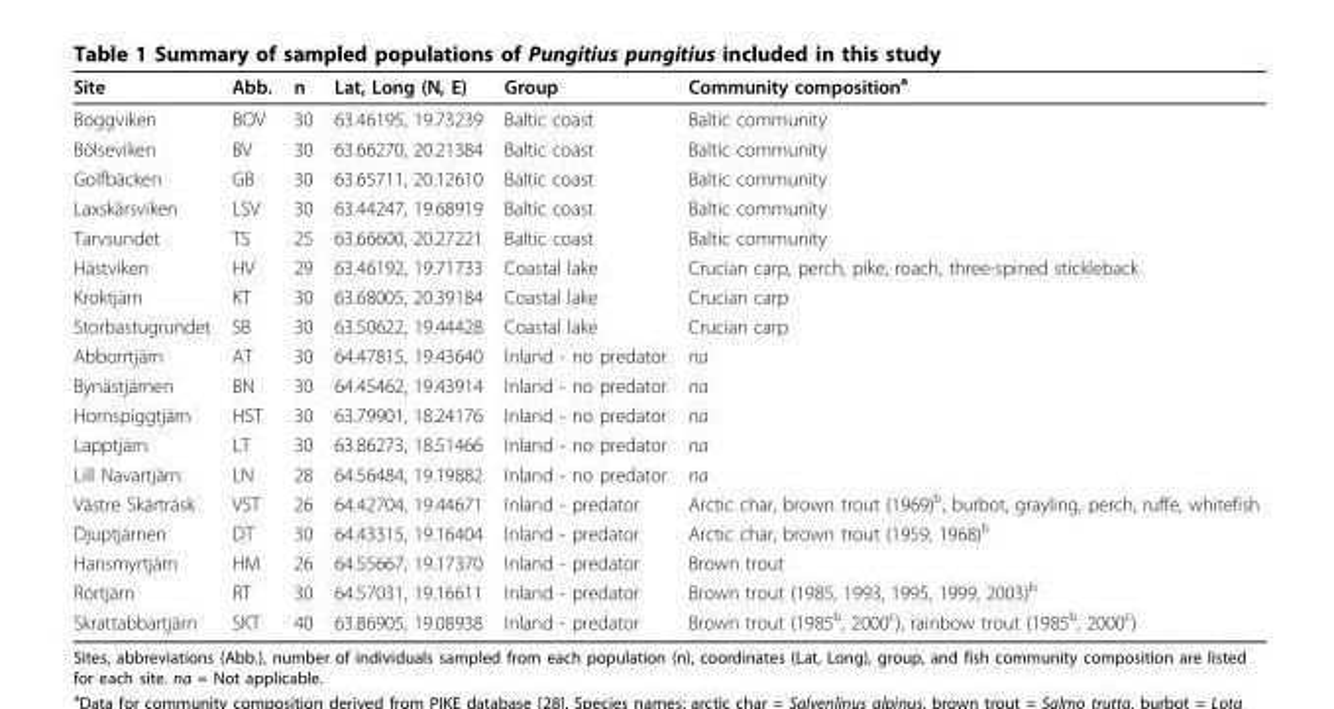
<table><thead><tr><td>Site</td><td>Abb.</td><td>n</td><td>Lat, Long (N, E)</td><td>Group</td><td>Community composition<sup>a</sup></td></tr></thead><tbody><tr><td>Boggviken</td><td>BOV</td><td>30</td><td>63.46195, 19.73239</td><td>Baltic coast</td><td>Baltic community</td></tr><tr><td>Bölseviken</td><td>BV</td><td>30</td><td>63.66270, 20.21384</td><td>Baltic coast</td><td>Baltic community</td></tr><tr><td>Golfbäcken</td><td>GB</td><td>30</td><td>63.65711, 20.12610</td><td>Baltic coast</td><td>Baltic community</td></tr><tr><td>Laxskärsviken</td><td>LSV</td><td>30</td><td>63.44247, 19.68919</td><td>Baltic coast</td><td>Baltic community</td></tr><tr><td>Tarvsundet</td><td>TS</td><td>25</td><td>63.66600, 20.27221</td><td>Baltic coast</td><td>Baltic community</td></tr><tr><td>Hästviken</td><td>HV</td><td>29</td><td>63.46192, 19.71733</td><td>Coastal lake</td><td>Crucian carp, perch, pike, roach, three-spined stickleback</td></tr><tr><td>Kroktjärn</td><td>KT</td><td>30</td><td>63.68005, 20.39184</td><td>Coastal lake</td><td>Crucian carp</td></tr><tr><td>Storbastugrundet</td><td>SB</td><td>30</td><td>63.50622, 19.44428</td><td>Coastal lake</td><td>Crucian carp</td></tr><tr><td>Abborrtjärn</td><td>AT</td><td>30</td><td>64.47815, 19.43640</td><td>Inland - no predator</td><td>na</td></tr><tr><td>Bynästjärnen</td><td>BN</td><td>30</td><td>64.45462, 19.43914</td><td>Inland - no predator</td><td>na</td></tr><tr><td>Hornspiggtjärn</td><td>HST</td><td>30</td><td>63.79901, 18.24176</td><td>Inland - no predator</td><td>na</td></tr><tr><td>Lapptjärn</td><td>LT</td><td>30</td><td>63.86273, 18.51466</td><td>Inland - no predator</td><td>na</td></tr><tr><td>Lill Navartjärn</td><td>LN</td><td>28</td><td>64.56484, 19.19882</td><td>Inland - no predator</td><td>na</td></tr><tr><td>Västre Skärträsk</td><td>VST</td><td>26</td><td>64.42704, 19.44671</td><td>Inland - predator</td><td>Arctic char, brown trout (1969)<sup>b</sup>, burbot, grayling, perch, ruffe, whitefish</td></tr><tr><td>Djuptjärnen</td><td>DT</td><td>30</td><td>64.43315, 19.16404</td><td>Inland - predator</td><td>Arctic char, brown trout (1959, 1968)<sup>b</sup></td></tr><tr><td>Hansmyrtjärn</td><td>HM</td><td>26</td><td>64.55667, 19.17370</td><td>Inland - predator</td><td>Brown trout</td></tr><tr><td>Rörtjärn</td><td>RT</td><td>30</td><td>64.57031, 19.16611</td><td>Inland - predator</td><td>Brown trout (1985, 1993, 1995, 1999, 2003)<sup>b</sup></td></tr><tr><td>Skrattabbartjärn</td><td>SKT</td><td>40</td><td>63.86905, 19.08938</td><td>Inland - predator</td><td>Brown trout (1985<sup>b</sup>, 2000<sup>c</sup>), rainbow trout (1985<sup>b</sup>, 2000<sup>c</sup>)</td></tr></tbody></table>